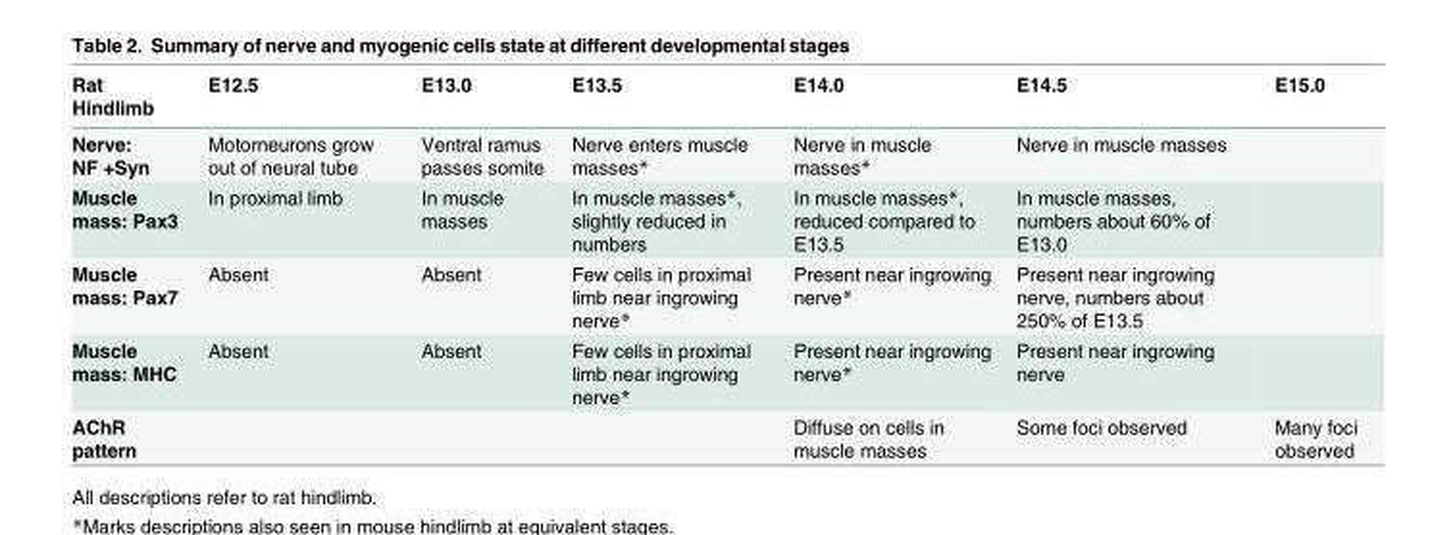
<table><thead><tr><td>Rat Hindlimb</td><td>E12.5</td><td>E13.0</td><td>E13.5</td><td>E14.0</td><td>E14.5</td><td>E15.0</td></tr></thead><tbody><tr><td>Nerve: NF +Syn</td><td>Motorneurons grow out of neural tube</td><td>Ventral ramus passes somite</td><td>Nerve enters muscle masses*</td><td>Nerve in muscle masses*</td><td>Nerve in muscle masses</td><td></td></tr><tr><td>Muscle mass: Pax3</td><td>In proximal limb</td><td>In muscle masses</td><td>In muscle masses*, slightly reduced in numbers</td><td>In muscle masses*, reduced compared to E13.5</td><td>In muscle masses, numbers about 60% of E13.0</td><td></td></tr><tr><td>Muscle mass: Pax7</td><td>Absent</td><td>Absent</td><td>Few cells in proximal limb near ingrowing nerve*</td><td>Present near ingrowing nerve*</td><td>Present near ingrowing nerve, numbers about 250% of E13.5</td><td></td></tr><tr><td>Muscle mass: MHC</td><td>Absent</td><td>Absent</td><td>Few cells in proximal limb near ingrowing nerve*</td><td>Present near ingrowing nerve*</td><td>Present near ingrowing nerve</td><td></td></tr><tr><td>AChR pattern</td><td></td><td></td><td></td><td>Diffuse on cells in muscle masses</td><td>Some foci observed</td><td>Many foci observed</td></tr></tbody></table>